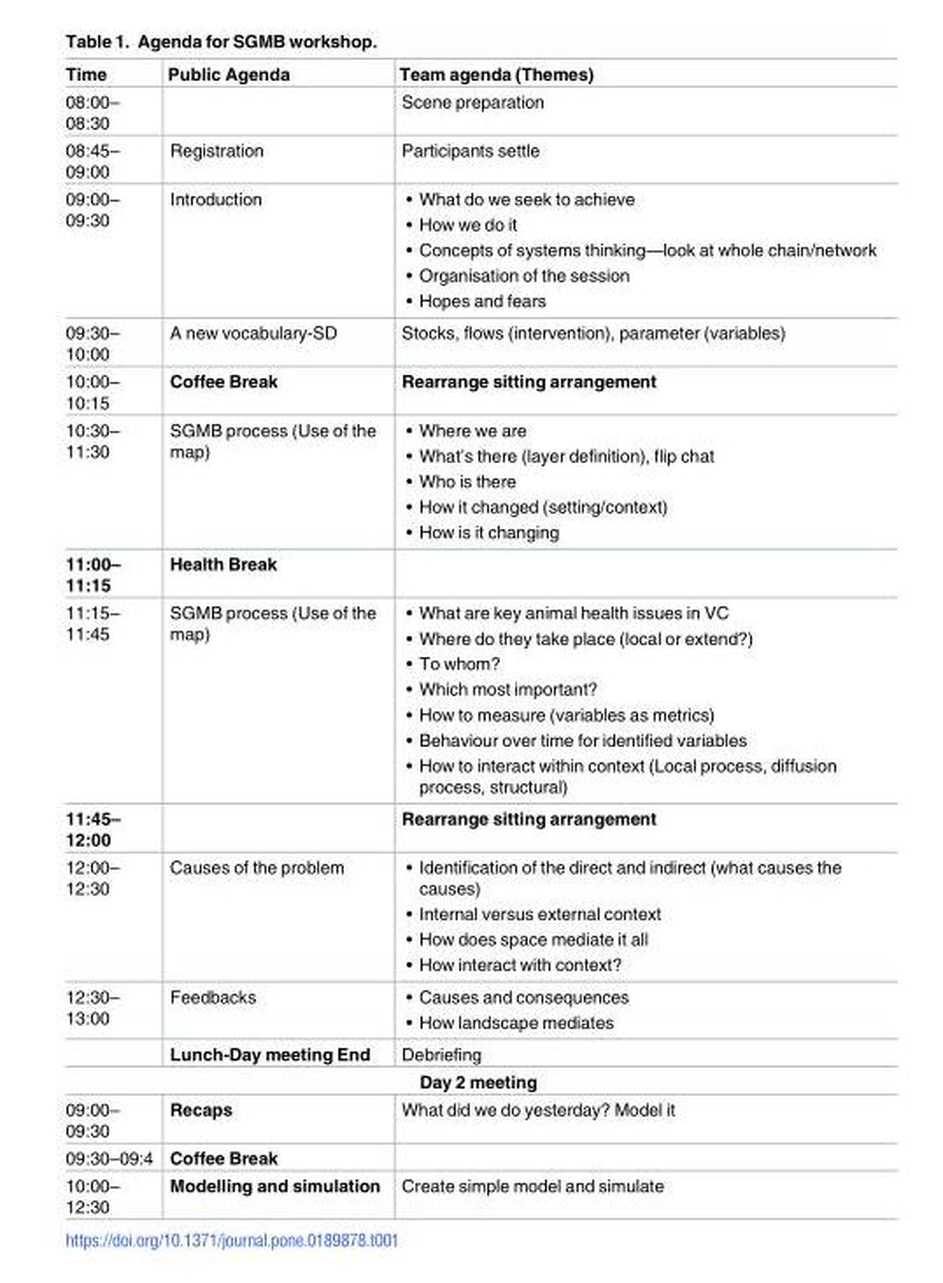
<table><thead><tr><td>Time</td><td>Public Agenda</td><td>Team agenda (Themes)</td></tr></thead><tbody><tr><td>08:00– 08:30</td><td></td><td>Scene preparation</td></tr><tr><td>08:45– 09:00</td><td>Registration</td><td>Participants settle</td></tr><tr><td>09:00– 09:30</td><td>Introduction</td><td>• What do we seek to achieve • How we do it • Concepts of systems thinking—look at whole chain/network • Organisation of the session • Hopes and fears</td></tr><tr><td>09:30– 10:00</td><td>A new vocabulary-SD</td><td>Stocks, flows (intervention), parameter (variables)</td></tr><tr><td>10:00– 10:15</td><td>Coffee Break</td><td>Rearrange sitting arrangement</td></tr><tr><td>10:30– 11:30</td><td>SGMB process (Use of the map)</td><td>• Where we are • What’s there (layer definition), flip chat • Who is there • How it changed (setting/context) • How is it changing</td></tr><tr><td>11:00– 11:15</td><td>Health Break</td><td></td></tr><tr><td>11:15– 11:45</td><td>SGMB process (Use of the map)</td><td>• What are key animal health issues in VC • Where do they take place (local or extend?) • To whom? • Which most important? • How to measure (variables as metrics) • Behaviour over time for identified variables • How to interact within context (Local process, diffusion process, structural)</td></tr><tr><td>11:45– 12:00</td><td></td><td>Rearrange sitting arrangement</td></tr><tr><td>12:00– 12:30</td><td>Causes of the problem</td><td>• Identification of the direct and indirect (what causes the causes) • Internal versus external context • How does space mediate it all • How interact with context?</td></tr><tr><td rowspan="2">12:30– 13:00</td><td>Feedbacks</td><td>• Causes and consequences • How landscape mediates</td></tr><tr><td>Lunch-Day meeting End</td><td>Debriefing</td></tr><tr><td colspan="3">Day 2 meeting</td></tr><tr><td>09:00– 09:30</td><td>Recaps</td><td>What did we do yesterday? Model it</td></tr><tr><td>09:30–09:4</td><td>Coffee Break</td><td></td></tr><tr><td>10:00– 12:30</td><td>Modelling and simulation</td><td>Create simple model and simulate</td></tr></tbody></table>